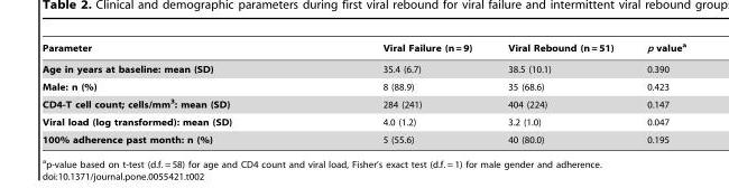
<table><thead><tr><td>Parameter</td><td>Viral Failure (n = 9)</td><td>Viral Rebound (n = 51)</td><td>p value<sup>a</sup></td></tr></thead><tbody><tr><td>Age in years at baseline: mean (SD)</td><td>35.4 (6.7)</td><td>38.5 (10.1)</td><td>0.390</td></tr><tr><td>Male: n (%)</td><td>8 (88.9)</td><td>35 (68.6)</td><td>0.423</td></tr><tr><td>CD4-T cell count; cells/mm<sup>3</sup>: mean (SD)</td><td>284 (241)</td><td>404 (224)</td><td>0.147</td></tr><tr><td>Viral load (log transformed): mean (SD)</td><td>4.0 (1.2)</td><td>3.2 (1.0)</td><td>0.047</td></tr><tr><td>100% adherence past month: n (%)</td><td>5 (55.6)</td><td>40 (80.0)</td><td>0.195</td></tr></tbody></table>